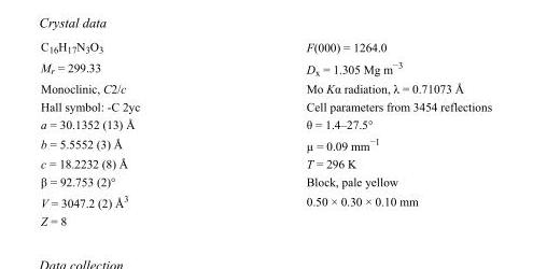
<table><tbody><tr><td>C<sub>16</sub>H<sub>17</sub>N<sub>3</sub>O<sub>3</sub></td><td>F(000) = 1264.0</td></tr><tr><td>M<sub>r</sub> = 299.33</td><td>D<sub>x</sub> = 1.305 Mg m<sup>−3</sup></td></tr><tr><td>Monoclinic, C2/c</td><td>Mo Kα radiation, λ = 0.71073 Å</td></tr><tr><td>Hall symbol: -C 2yc</td><td>Cell parameters from 3454 reflections</td></tr><tr><td>a = 30.1352 (13) Å</td><td>θ = 1.4–27.5°</td></tr><tr><td>b = 5.5552 (3) Å</td><td>µ = 0.09 mm<sup>−1</sup></td></tr><tr><td>c = 18.2232 (8) Å</td><td>T = 296 K</td></tr><tr><td>β = 92.753 (2)°</td><td>Block, pale yellow</td></tr><tr><td>V = 3047.2 (2) Å<sup>3</sup></td><td>0.50 × 0.30 × 0.10 mm</td></tr><tr><td>Z = 8</td><td></td></tr></tbody></table>